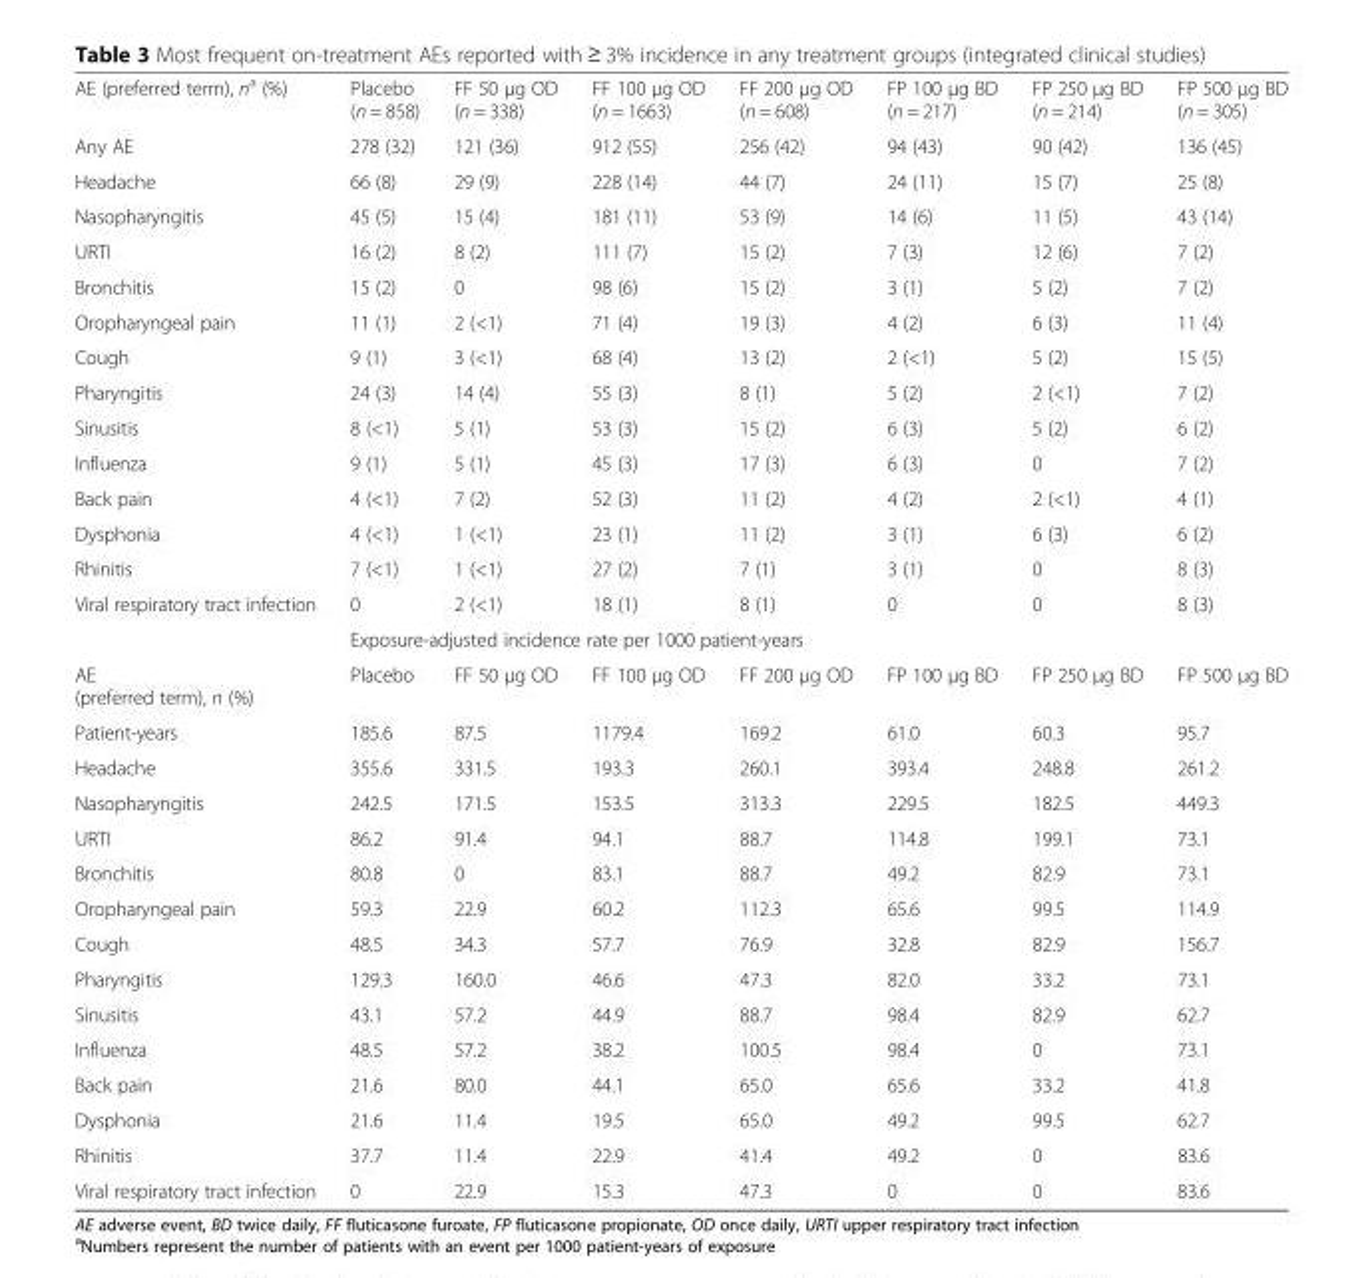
<table><tbody><tr><td>AE (preferred term), n<sup>a</sup> (%)</td><td>Placebo (n = 858)</td><td>FF 50 μg OD (n = 338)</td><td>FF 100 μg OD (n = 1663)</td><td>FF 200 μg OD (n = 608)</td><td>FP 100 μg BD (n = 217)</td><td>FP 250 μg BD (n = 214)</td><td>FP 500 μg BD (n = 305)</td></tr><tr><td>Any AE</td><td>278 (32)</td><td>121 (36)</td><td>912 (55)</td><td>256 (42)</td><td>94 (43)</td><td>90 (42)</td><td>136 (45)</td></tr><tr><td>Headache</td><td>66 (8)</td><td>29 (9)</td><td>228 (14)</td><td>44 (7)</td><td>24 (11)</td><td>15 (7)</td><td>25 (8)</td></tr><tr><td>Nasopharyngitis</td><td>45 (5)</td><td>15 (4)</td><td>181 (11)</td><td>53 (9)</td><td>14 (6)</td><td>11 (5)</td><td>43 (14)</td></tr><tr><td>URTI</td><td>16 (2)</td><td>8 (2)</td><td>111 (7)</td><td>15 (2)</td><td>7 (3)</td><td>12 (6)</td><td>7 (2)</td></tr><tr><td>Bronchitis</td><td>15 (2)</td><td>0</td><td>98 (6)</td><td>15 (2)</td><td>3 (1)</td><td>5 (2)</td><td>7 (2)</td></tr><tr><td>Oropharyngeal pain</td><td>11 (1)</td><td>2 (&lt;1)</td><td>71 (4)</td><td>19 (3)</td><td>4 (2)</td><td>6 (3)</td><td>11 (4)</td></tr><tr><td>Cough</td><td>9 (1)</td><td>3 (&lt;1)</td><td>68 (4)</td><td>13 (2)</td><td>2 (&lt;1)</td><td>5 (2)</td><td>15 (5)</td></tr><tr><td>Pharyngitis</td><td>24 (3)</td><td>14 (4)</td><td>55 (3)</td><td>8 (1)</td><td>5 (2)</td><td>2 (&lt;1)</td><td>7 (2)</td></tr><tr><td>Sinusitis</td><td>8 (&lt;1)</td><td>5 (1)</td><td>53 (3)</td><td>15 (2)</td><td>6 (3)</td><td>5 (2)</td><td>6 (2)</td></tr><tr><td>Influenza</td><td>9 (1)</td><td>5 (1)</td><td>45 (3)</td><td>17 (3)</td><td>6 (3)</td><td>0</td><td>7 (2)</td></tr><tr><td>Back pain</td><td>4 (&lt;1)</td><td>7 (2)</td><td>52 (3)</td><td>11 (2)</td><td>4 (2)</td><td>2 (&lt;1)</td><td>4 (1)</td></tr><tr><td>Dysphonia</td><td>4 (&lt;1)</td><td>1 (&lt;1)</td><td>23 (1)</td><td>11 (2)</td><td>3 (1)</td><td>6 (3)</td><td>6 (2)</td></tr><tr><td>Rhinitis</td><td>7 (&lt;1)</td><td>1 (&lt;1)</td><td>27 (2)</td><td>7 (1)</td><td>3 (1)</td><td>0</td><td>8 (3)</td></tr><tr><td rowspan="2">Viral respiratory tract infection</td><td>0</td><td>2 (&lt;1)</td><td>18 (1)</td><td>8 (1)</td><td>0</td><td>0</td><td>8 (3)</td></tr><tr><td colspan="7">Exposure-adjusted incidence rate per 1000 patient-years</td></tr><tr><td>AE (preferred term), n (%)</td><td>Placebo</td><td>FF 50 μg OD</td><td>FF 100 μg OD</td><td>FF 200 μg OD</td><td>FP 100 μg BD</td><td>FP 250 μg BD</td><td>FP 500 μg BD</td></tr><tr><td>Patient-years</td><td>185.6</td><td>87.5</td><td>1179.4</td><td>169.2</td><td>61.0</td><td>60.3</td><td>95.7</td></tr><tr><td>Headache</td><td>355.6</td><td>331.5</td><td>193.3</td><td>260.1</td><td>393.4</td><td>248.8</td><td>261.2</td></tr><tr><td>Nasopharyngitis</td><td>242.5</td><td>171.5</td><td>153.5</td><td>313.3</td><td>229.5</td><td>182.5</td><td>449.3</td></tr><tr><td>URTI</td><td>86.2</td><td>91.4</td><td>94.1</td><td>88.7</td><td>114.8</td><td>199.1</td><td>73.1</td></tr><tr><td>Bronchitis</td><td>80.8</td><td>0</td><td>83.1</td><td>88.7</td><td>49.2</td><td>82.9</td><td>73.1</td></tr><tr><td>Oropharyngeal pain</td><td>59.3</td><td>22.9</td><td>60.2</td><td>112.3</td><td>65.6</td><td>99.5</td><td>114.9</td></tr><tr><td>Cough</td><td>48.5</td><td>34.3</td><td>57.7</td><td>76.9</td><td>32.8</td><td>82.9</td><td>156.7</td></tr><tr><td>Pharyngitis</td><td>129.3</td><td>160.0</td><td>46.6</td><td>47.3</td><td>82.0</td><td>33.2</td><td>73.1</td></tr><tr><td>Sinusitis</td><td>43.1</td><td>57.2</td><td>44.9</td><td>88.7</td><td>98.4</td><td>82.9</td><td>62.7</td></tr><tr><td>Influenza</td><td>48.5</td><td>57.2</td><td>38.2</td><td>100.5</td><td>98.4</td><td>0</td><td>73.1</td></tr><tr><td>Back pain</td><td>21.6</td><td>80.0</td><td>44.1</td><td>65.0</td><td>65.6</td><td>33.2</td><td>41.8</td></tr><tr><td>Dysphonia</td><td>21.6</td><td>11.4</td><td>19.5</td><td>65.0</td><td>49.2</td><td>99.5</td><td>62.7</td></tr><tr><td>Rhinitis</td><td>37.7</td><td>11.4</td><td>22.9</td><td>41.4</td><td>49.2</td><td>0</td><td>83.6</td></tr><tr><td>Viral respiratory tract infection</td><td>0</td><td>22.9</td><td>15.3</td><td>47.3</td><td>0</td><td>0</td><td>83.6</td></tr></tbody></table>